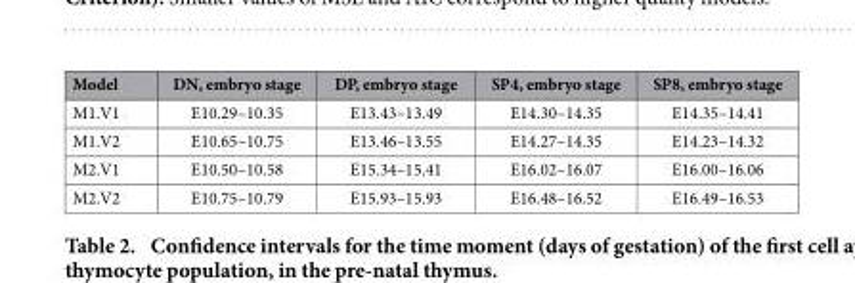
<table><thead><tr><td>Model</td><td>DN, embryo stage</td><td>DP, embryo stage</td><td>SP4, embryo stage</td><td>SP8, embryo stage</td></tr></thead><tbody><tr><td>M1.V1</td><td>E10.29–10.35</td><td>E13.43–13.49</td><td>E14.30–14.35</td><td>E14.35–14.41</td></tr><tr><td>M1.V2</td><td>E10.65–10.75</td><td>E13.46–13.55</td><td>E14.27–14.35</td><td>E14.23–14.32</td></tr><tr><td>M2.V1</td><td>E10.50–10.58</td><td>E15.34–15.41</td><td>E16.02–16.07</td><td>E16.00–16.06</td></tr><tr><td>M2.V2</td><td>E10.75–10.79</td><td>E15.93–15.93</td><td>E16.48–16.52</td><td>E16.49–16.53</td></tr></tbody></table>